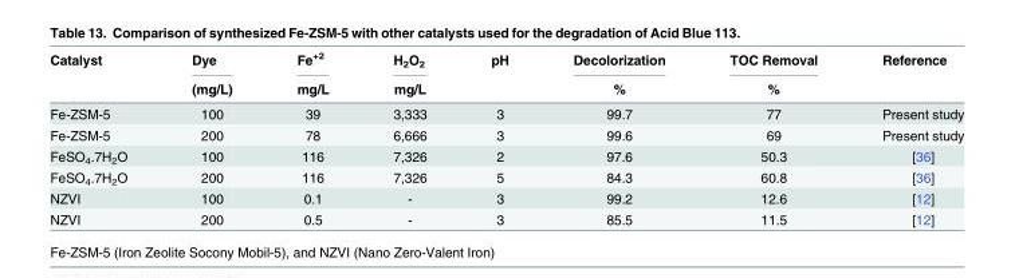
<table><thead><tr><td rowspan="2">Catalyst</td><td rowspan="2">Dye (mg/L)</td><td rowspan="2">Fe<sup>+2</sup> mg/L</td><td rowspan="2">H<sub>2</sub>O<sub>2</sub> mg/L</td><td rowspan="2">pH</td><td rowspan="2">Decolorization %</td><td rowspan="2">TOC Removal %</td><td rowspan="2">Reference</td></tr><tr></tr></thead><tbody><tr><td>Fe-ZSM-5</td><td>100</td><td>39</td><td>3,333</td><td>3</td><td>99.7</td><td>77</td><td>Present study</td></tr><tr><td>Fe-ZSM-5</td><td>200</td><td>78</td><td>6,666</td><td>3</td><td>99.6</td><td>69</td><td>Present study</td></tr><tr><td>FeSO<sub>4</sub>.7H<sub>2</sub>O</td><td>100</td><td>116</td><td>7,326</td><td>2</td><td>97.6</td><td>50.3</td><td>[36]</td></tr><tr><td>FeSO<sub>4</sub>.7H<sub>2</sub>O</td><td>200</td><td>116</td><td>7,326</td><td>5</td><td>84.3</td><td>60.8</td><td>[36]</td></tr><tr><td>NZVI</td><td>100</td><td>0.1</td><td>-</td><td>3</td><td>99.2</td><td>12.6</td><td>[12]</td></tr><tr><td>NZVI</td><td>200</td><td>0.5</td><td>-</td><td>3</td><td>85.5</td><td>11.5</td><td>[12]</td></tr></tbody></table>